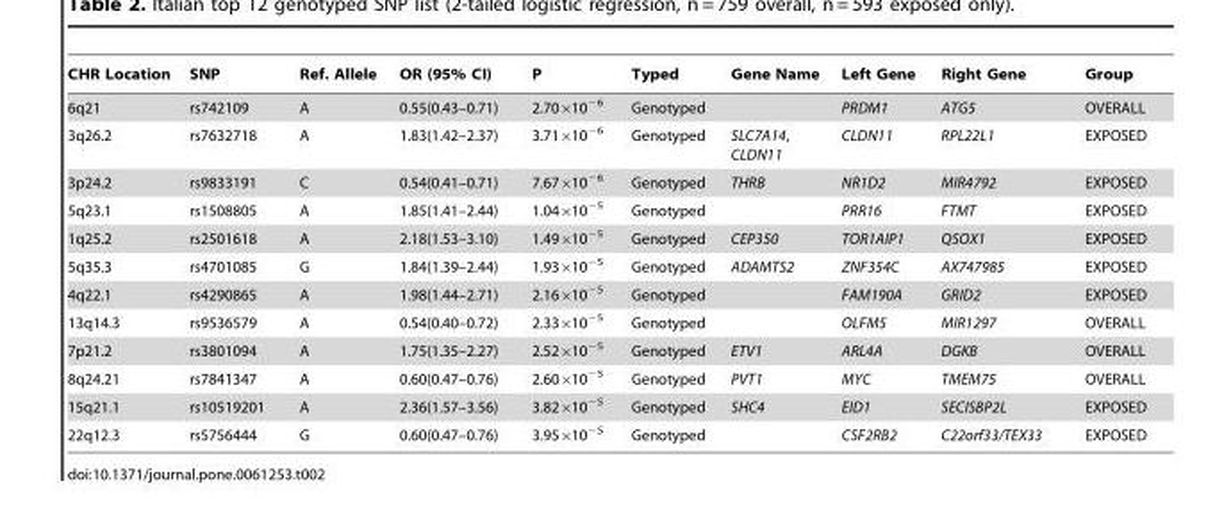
<table><thead><tr><td>CHR Location</td><td>SNP</td><td>Ref. Allele</td><td>OR (95% CI)</td><td>P</td><td>Typed</td><td>Gene Name</td><td>Left Gene</td><td>Right Gene</td><td>Group</td></tr></thead><tbody><tr><td>6q21</td><td>rs742109</td><td>A</td><td>0.55(0.43–0.71)</td><td>2.70×10<sup>−6</sup></td><td>Genotyped</td><td></td><td>PRDM1</td><td>ATG5</td><td>OVERALL</td></tr><tr><td>3q26.2</td><td>rs7632718</td><td>A</td><td>1.83(1.42–2.37)</td><td>3.71×10<sup>−6</sup></td><td>Genotyped</td><td>SLC7A14, CLDN11</td><td>CLDN11</td><td>RPL22L1</td><td>EXPOSED</td></tr><tr><td>3p24.2</td><td>rs9833191</td><td>C</td><td>0.54(0.41–0.71)</td><td>7.67×10<sup>−6</sup></td><td>Genotyped</td><td>THRB</td><td>NR1D2</td><td>MIR4792</td><td>EXPOSED</td></tr><tr><td>5q23.1</td><td>rs1508805</td><td>A</td><td>1.85(1.41–2.44)</td><td>1.04×10<sup>−5</sup></td><td>Genotyped</td><td></td><td>PRR16</td><td>FTMT</td><td>EXPOSED</td></tr><tr><td>1q25.2</td><td>rs2501618</td><td>A</td><td>2.18(1.53–3.10)</td><td>1.49×10<sup>−5</sup></td><td>Genotyped</td><td>CEP350</td><td>TOR1AIP1</td><td>QSOX1</td><td>EXPOSED</td></tr><tr><td>5q35.3</td><td>rs4701085</td><td>G</td><td>1.84(1.39–2.44)</td><td>1.93×10<sup>−5</sup></td><td>Genotyped</td><td>ADAMTS2</td><td>ZNF354C</td><td>AX747985</td><td>EXPOSED</td></tr><tr><td>4q22.1</td><td>rs4290865</td><td>A</td><td>1.98(1.44–2.71)</td><td>2.16×10<sup>−5</sup></td><td>Genotyped</td><td></td><td>FAM190A</td><td>GRID2</td><td>EXPOSED</td></tr><tr><td>13q14.3</td><td>rs9536579</td><td>A</td><td>0.54(0.40–0.72)</td><td>2.33×10<sup>−5</sup></td><td>Genotyped</td><td></td><td>OLFM5</td><td>MIR1297</td><td>OVERALL</td></tr><tr><td>7p21.2</td><td>rs3801094</td><td>A</td><td>1.75(1.35–2.27)</td><td>2.52×10<sup>−5</sup></td><td>Genotyped</td><td>ETV1</td><td>ARL4A</td><td>DGKB</td><td>OVERALL</td></tr><tr><td>8q24.21</td><td>rs7841347</td><td>A</td><td>0.60(0.47–0.76)</td><td>2.60×10<sup>−5</sup></td><td>Genotyped</td><td>PVT1</td><td>MYC</td><td>TMEM75</td><td>OVERALL</td></tr><tr><td>15q21.1</td><td>rs10519201</td><td>A</td><td>2.36(1.57–3.56)</td><td>3.82×10<sup>−5</sup></td><td>Genotyped</td><td>SHC4</td><td>EID1</td><td>SECISBP2L</td><td>EXPOSED</td></tr><tr><td>22q12.3</td><td>rs5756444</td><td>G</td><td>0.60(0.47–0.76)</td><td>3.95×10<sup>−5</sup></td><td>Genotyped</td><td></td><td>CSF2RB2</td><td>C22orf33/TEX33</td><td>EXPOSED</td></tr></tbody></table>